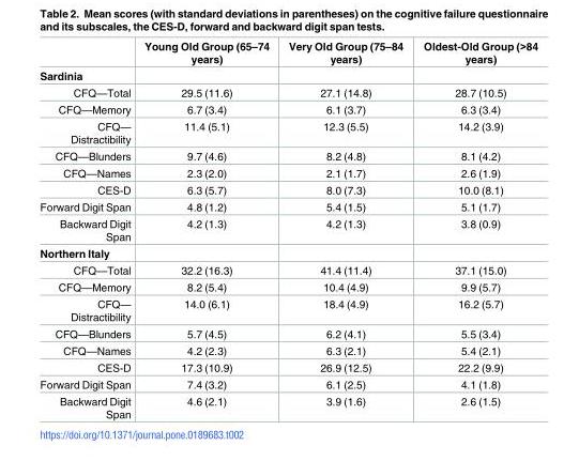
<table><thead><tr><td></td><td>Young Old Group (65–74 years)</td><td>Very Old Group (75–84 years)</td><td>Oldest-Old Group (&gt;84 years)</td></tr></thead><tbody><tr><td colspan="4">Sardinia</td></tr><tr><td>CFQ—Total</td><td>29.5 (11.6)</td><td>27.1 (14.8)</td><td>28.7 (10.5)</td></tr><tr><td>CFQ—Memory</td><td>6.7 (3.4)</td><td>6.1 (3.7)</td><td>6.3 (3.4)</td></tr><tr><td>CFQ— Distractibility</td><td>11.4 (5.1)</td><td>12.3 (5.5)</td><td>14.2 (3.9)</td></tr><tr><td>CFQ—Blunders</td><td>9.7 (4.6)</td><td>8.2 (4.8)</td><td>8.1 (4.2)</td></tr><tr><td>CFQ—Names</td><td>2.3 (2.0)</td><td>2.1 (1.7)</td><td>2.6 (1.9)</td></tr><tr><td>CES-D</td><td>6.3 (5.7)</td><td>8.0 (7.3)</td><td>10.0 (8.1)</td></tr><tr><td>Forward Digit Span</td><td>4.8 (1.2)</td><td>5.4 (1.5)</td><td>5.1 (1.7)</td></tr><tr><td>Backward Digit Span</td><td>4.2 (1.3)</td><td>4.2 (1.3)</td><td>3.8 (0.9)</td></tr><tr><td colspan="4">Northern Italy</td></tr><tr><td>CFQ—Total</td><td>32.2 (16.3)</td><td>41.4 (11.4)</td><td>37.1 (15.0)</td></tr><tr><td>CFQ—Memory</td><td>8.2 (5.4)</td><td>10.4 (4.9)</td><td>9.9 (5.7)</td></tr><tr><td>CFQ— Distractibility</td><td>14.0 (6.1)</td><td>18.4 (4.9)</td><td>16.2 (5.7)</td></tr><tr><td>CFQ—Blunders</td><td>5.7 (4.5)</td><td>6.2 (4.1)</td><td>5.5 (3.4)</td></tr><tr><td>CFQ—Names</td><td>4.2 (2.3)</td><td>6.3 (2.1)</td><td>5.4 (2.1)</td></tr><tr><td>CES-D</td><td>17.3 (10.9)</td><td>26.9 (12.5)</td><td>22.2 (9.9)</td></tr><tr><td>Forward Digit Span</td><td>7.4 (3.2)</td><td>6.1 (2.5)</td><td>4.1 (1.8)</td></tr><tr><td>Backward Digit Span</td><td>4.6 (2.1)</td><td>3.9 (1.6)</td><td>2.6 (1.5)</td></tr></tbody></table>